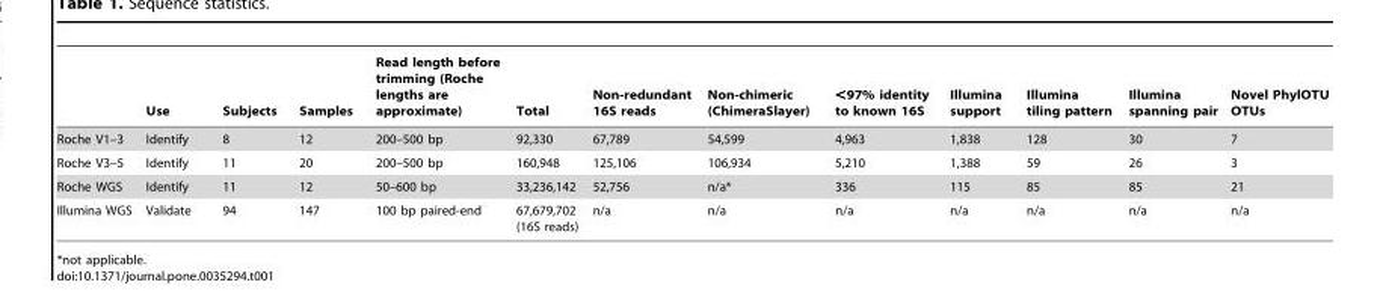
<table><thead><tr><td></td><td>Use</td><td>Subjects</td><td>Samples</td><td>Read length before trimming (Roche lengths are approximate)</td><td>Total</td><td>Non-redundant 16S reads</td><td>Non-chimeric (ChimeraSlayer)</td><td>&lt;97% identity to known 16S</td><td>Illumina support</td><td>Illumina tiling pattern</td><td>Illumina spanning pair</td><td>Novel PhylOTU OTUs</td></tr></thead><tbody><tr><td>Roche V1–3</td><td>Identify</td><td>8</td><td>12</td><td>200–500 bp</td><td>92,330</td><td>67,789</td><td>54,599</td><td>4,963</td><td>1,838</td><td>128</td><td>30</td><td>7</td></tr><tr><td>Roche V3–5</td><td>Identify</td><td>11</td><td>20</td><td>200–500 bp</td><td>160,948</td><td>125,106</td><td>106,934</td><td>5,210</td><td>1,388</td><td>59</td><td>26</td><td>3</td></tr><tr><td>Roche WGS</td><td>Identify</td><td>11</td><td>12</td><td>50–600 bp</td><td>33,236,142</td><td>52,756</td><td>n/a*</td><td>336</td><td>115</td><td>85</td><td>85</td><td>21</td></tr><tr><td>Illumina WGS</td><td>Validate</td><td>94</td><td>147</td><td>100 bp paired-end</td><td>67,679,702 (16S reads)</td><td>n/a</td><td>n/a</td><td>n/a</td><td>n/a</td><td>n/a</td><td>n/a</td><td>n/a</td></tr></tbody></table>